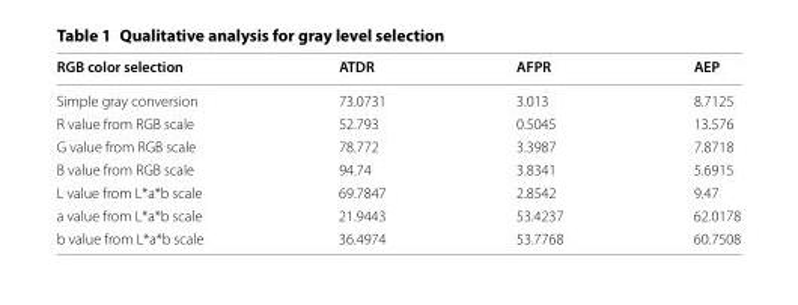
<table><thead><tr><td>RGB color selection</td><td>ATDR</td><td>AFPR</td><td>AEP</td></tr></thead><tbody><tr><td>Simple gray conversion</td><td>73.0731</td><td>3.013</td><td>8.7125</td></tr><tr><td>R value from RGB scale</td><td>52.793</td><td>0.5045</td><td>13.576</td></tr><tr><td>G value from RGB scale</td><td>78.772</td><td>3.3987</td><td>7.8718</td></tr><tr><td>B value from RGB scale</td><td>94.74</td><td>3.8341</td><td>5.6915</td></tr><tr><td>L value from L*a*b scale</td><td>69.7847</td><td>2.8542</td><td>9.47</td></tr><tr><td>a value from L*a*b scale</td><td>21.9443</td><td>53.4237</td><td>62.0178</td></tr><tr><td>b value from L*a*b scale</td><td>36.4974</td><td>53.7768</td><td>60.7508</td></tr></tbody></table>